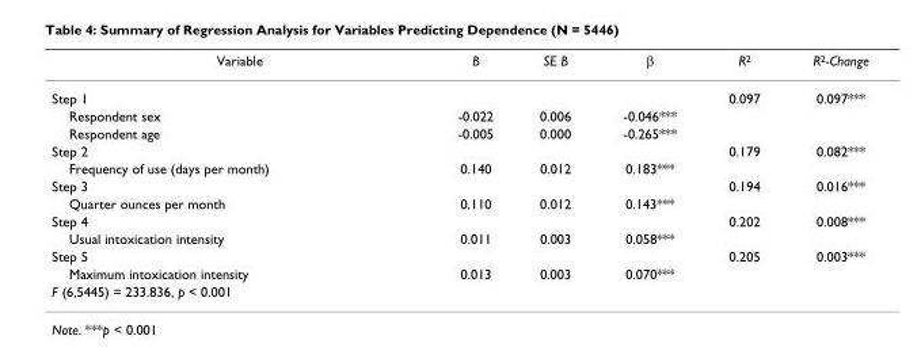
<table><thead><tr><td>Variable</td><td>B</td><td>SE B</td><td>β</td><td>R<sup>2</sup></td><td>R<sup>2</sup>-Change</td></tr></thead><tbody><tr><td>Step 1</td><td></td><td></td><td></td><td>0.097</td><td>0.097***</td></tr><tr><td>Respondent sex</td><td>-0.022</td><td>0.006</td><td>-0.046***</td><td></td><td></td></tr><tr><td>Respondent age</td><td>-0.005</td><td>0.000</td><td>-0.265***</td><td></td><td></td></tr><tr><td>Step 2</td><td></td><td></td><td></td><td>0.179</td><td>0.082***</td></tr><tr><td>Frequency of use (days per month)</td><td>0.140</td><td>0.012</td><td>0.183***</td><td></td><td></td></tr><tr><td>Step 3</td><td></td><td></td><td></td><td>0.194</td><td>0.016***</td></tr><tr><td>Quarter ounces per month</td><td>0.110</td><td>0.012</td><td>0.143***</td><td></td><td></td></tr><tr><td>Step 4</td><td></td><td></td><td></td><td>0.202</td><td>0.008***</td></tr><tr><td>Usual intoxication intensity</td><td>0.011</td><td>0.003</td><td>0.058***</td><td></td><td></td></tr><tr><td>Step 5</td><td></td><td></td><td></td><td>0.205</td><td>0.003***</td></tr><tr><td>Maximum intoxication intensity</td><td>0.013</td><td>0.003</td><td>0.070***</td><td></td><td></td></tr><tr><td>F (6,5445) = 233.836, p &lt; 0.001</td><td></td><td></td><td></td><td></td><td></td></tr></tbody></table>